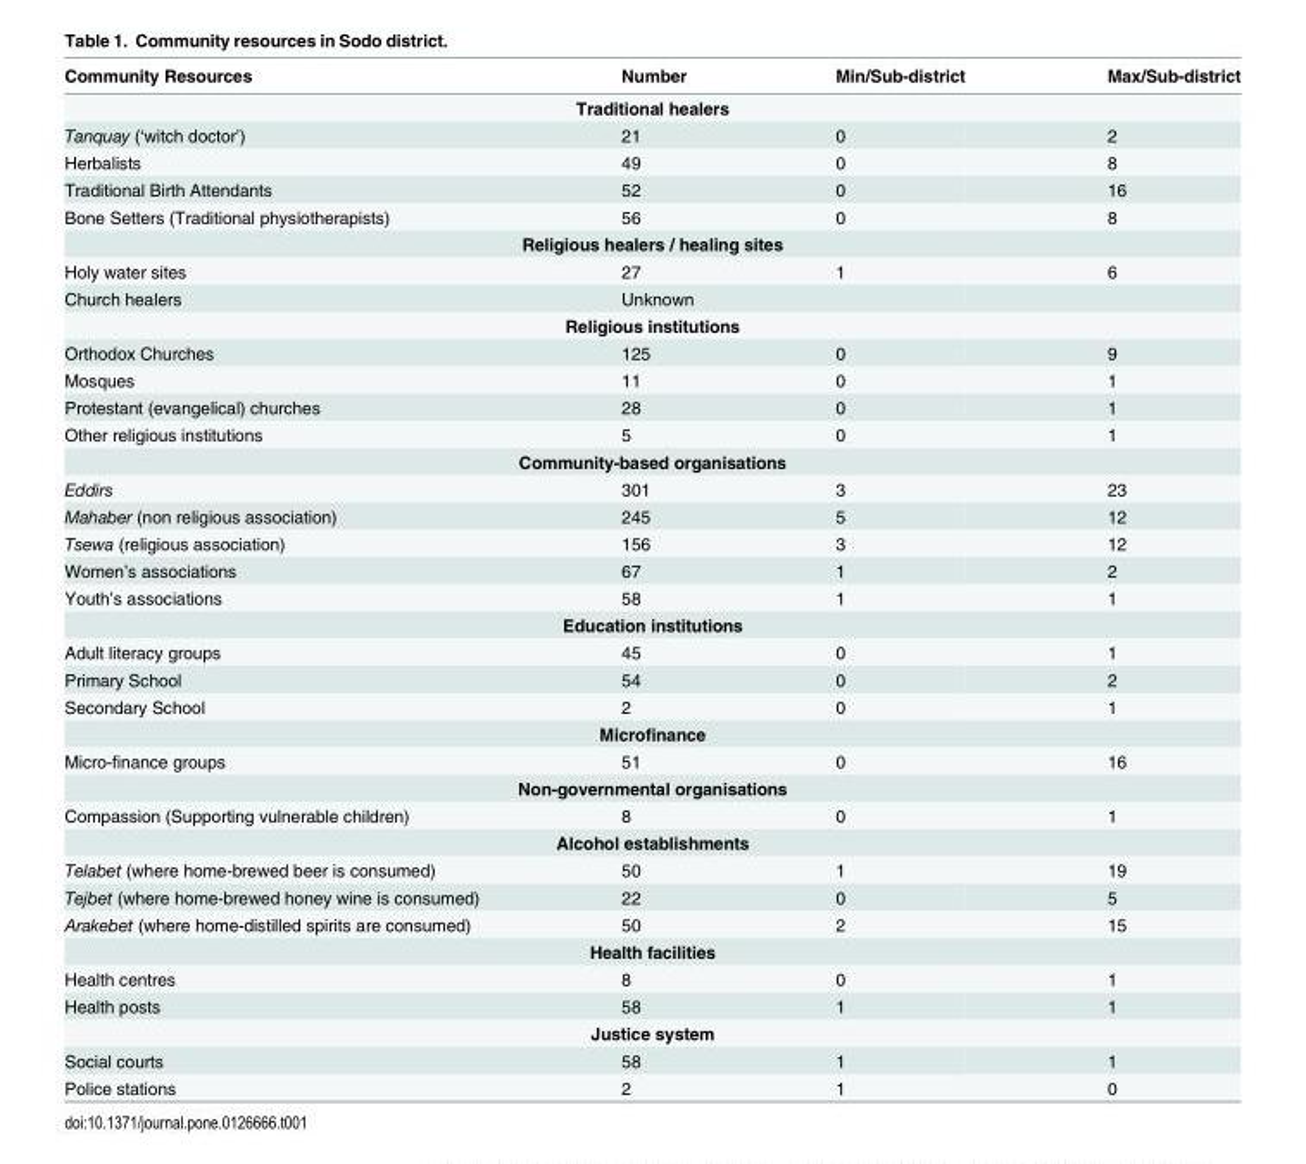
<table><thead><tr><td>Community Resources</td><td>Number</td><td>Min/Sub-district</td><td>Max/Sub-district</td></tr></thead><tbody><tr><td colspan="4">Traditional healers</td></tr><tr><td>Tanquay (‘witch doctor’)</td><td>21</td><td>0</td><td>2</td></tr><tr><td>Herbalists</td><td>49</td><td>0</td><td>8</td></tr><tr><td>Traditional Birth Attendants</td><td>52</td><td>0</td><td>16</td></tr><tr><td>Bone Setters (Traditional physiotherapists)</td><td>56</td><td>0</td><td>8</td></tr><tr><td colspan="4">Religious healers / healing sites</td></tr><tr><td>Holy water sites</td><td>27</td><td>1</td><td>6</td></tr><tr><td>Church healers</td><td>Unknown</td><td></td><td></td></tr><tr><td colspan="4">Religious institutions</td></tr><tr><td>Orthodox Churches</td><td>125</td><td>0</td><td>9</td></tr><tr><td>Mosques</td><td>11</td><td>0</td><td>1</td></tr><tr><td>Protestant (evangelical) churches</td><td>28</td><td>0</td><td>1</td></tr><tr><td>Other religious institutions</td><td>5</td><td>0</td><td>1</td></tr><tr><td colspan="4">Community-based organisations</td></tr><tr><td>Eddirs</td><td>301</td><td>3</td><td>23</td></tr><tr><td>Mahaber (non religious association)</td><td>245</td><td>5</td><td>12</td></tr><tr><td>Tsewa (religious association)</td><td>156</td><td>3</td><td>12</td></tr><tr><td>Women’s associations</td><td>67</td><td>1</td><td>2</td></tr><tr><td>Youth’s associations</td><td>58</td><td>1</td><td>1</td></tr><tr><td colspan="4">Education institutions</td></tr><tr><td>Adult literacy groups</td><td>45</td><td>0</td><td>1</td></tr><tr><td>Primary School</td><td>54</td><td>0</td><td>2</td></tr><tr><td>Secondary School</td><td>2</td><td>0</td><td>1</td></tr><tr><td colspan="4">Microfinance</td></tr><tr><td>Micro-finance groups</td><td>51</td><td>0</td><td>16</td></tr><tr><td colspan="4">Non-governmental organisations</td></tr><tr><td>Compassion (Supporting vulnerable children)</td><td>8</td><td>0</td><td>1</td></tr><tr><td colspan="4">Alcohol establishments</td></tr><tr><td>Telabet (where home-brewed beer is consumed)</td><td>50</td><td>1</td><td>19</td></tr><tr><td>Tejbet (where home-brewed honey wine is consumed)</td><td>22</td><td>0</td><td>5</td></tr><tr><td>Arakebet (where home-distilled spirits are consumed)</td><td>50</td><td>2</td><td>15</td></tr><tr><td colspan="4">Health facilities</td></tr><tr><td>Health centres</td><td>8</td><td>0</td><td>1</td></tr><tr><td>Health posts</td><td>58</td><td>1</td><td>1</td></tr><tr><td colspan="4">Justice system</td></tr><tr><td>Social courts</td><td>58</td><td>1</td><td>1</td></tr><tr><td>Police stations</td><td>2</td><td>1</td><td>0</td></tr></tbody></table>